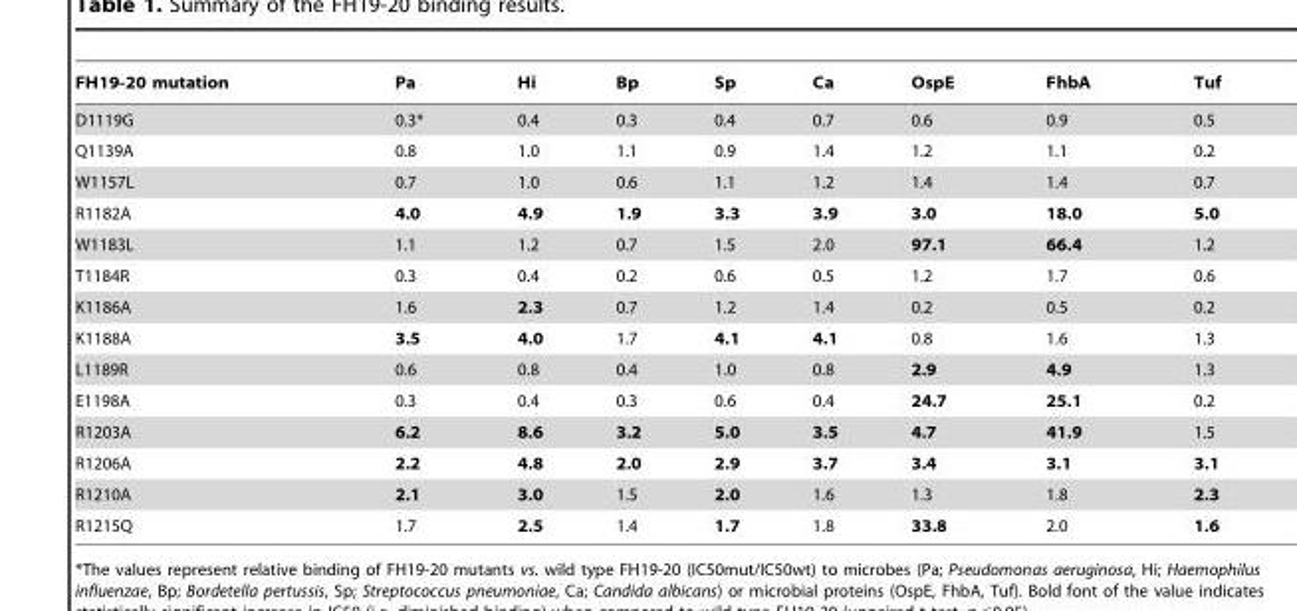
<table><thead><tr><td>FH19-20 mutation</td><td>Pa</td><td>Hi</td><td>Bp</td><td>Sp</td><td>Ca</td><td>OspE</td><td>FhbA</td><td>Tuf</td></tr></thead><tbody><tr><td>D1119G</td><td>0.3*</td><td>0.4</td><td>0.3</td><td>0.4</td><td>0.7</td><td>0.6</td><td>0.9</td><td>0.5</td></tr><tr><td>Q1139A</td><td>0.8</td><td>1.0</td><td>1.1</td><td>0.9</td><td>1.4</td><td>1.2</td><td>1.1</td><td>0.2</td></tr><tr><td>W1157L</td><td>0.7</td><td>1.0</td><td>0.6</td><td>1.1</td><td>1.2</td><td>1.4</td><td>1.4</td><td>0.7</td></tr><tr><td>R1182A</td><td>4.0</td><td>4.9</td><td>1.9</td><td>3.3</td><td>3.9</td><td>3.0</td><td>18.0</td><td>5.0</td></tr><tr><td>W1183L</td><td>1.1</td><td>1.2</td><td>0.7</td><td>1.5</td><td>2.0</td><td>97.1</td><td>66.4</td><td>1.2</td></tr><tr><td>T1184R</td><td>0.3</td><td>0.4</td><td>0.2</td><td>0.6</td><td>0.5</td><td>1.2</td><td>1.7</td><td>0.6</td></tr><tr><td>K1186A</td><td>1.6</td><td>2.3</td><td>0.7</td><td>1.2</td><td>1.4</td><td>0.2</td><td>0.5</td><td>0.2</td></tr><tr><td>K1188A</td><td>3.5</td><td>4.0</td><td>1.7</td><td>4.1</td><td>4.1</td><td>0.8</td><td>1.6</td><td>1.3</td></tr><tr><td>L1189R</td><td>0.6</td><td>0.8</td><td>0.4</td><td>1.0</td><td>0.8</td><td>2.9</td><td>4.9</td><td>1.3</td></tr><tr><td>E1198A</td><td>0.3</td><td>0.4</td><td>0.3</td><td>0.6</td><td>0.4</td><td>24.7</td><td>25.1</td><td>0.2</td></tr><tr><td>R1203A</td><td>6.2</td><td>8.6</td><td>3.2</td><td>5.0</td><td>3.5</td><td>4.7</td><td>41.9</td><td>1.5</td></tr><tr><td>R1206A</td><td>2.2</td><td>4.8</td><td>2.0</td><td>2.9</td><td>3.7</td><td>3.4</td><td>3.1</td><td>3.1</td></tr><tr><td>R1210A</td><td>2.1</td><td>3.0</td><td>1.5</td><td>2.0</td><td>1.6</td><td>1.3</td><td>1.8</td><td>2.3</td></tr><tr><td>R1215Q</td><td>1.7</td><td>2.5</td><td>1.4</td><td>1.7</td><td>1.8</td><td>33.8</td><td>2.0</td><td>1.6</td></tr></tbody></table>